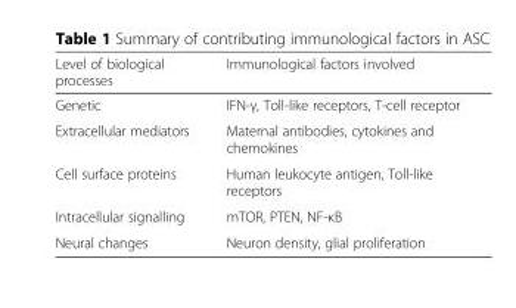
<table><thead><tr><td>Level of biological processes</td><td>Immunological factors involved</td></tr></thead><tbody><tr><td>Genetic</td><td>IFN-γ, Toll-like receptors, T-cell receptor</td></tr><tr><td>Extracellular mediators</td><td>Maternal antibodies, cytokines and chemokines</td></tr><tr><td>Cell surface proteins</td><td>Human leukocyte antigen, Toll-like receptors</td></tr><tr><td>Intracellular signalling</td><td>mTOR, PTEN, NF-κB</td></tr><tr><td>Neural changes</td><td>Neuron density, glial proliferation</td></tr></tbody></table>